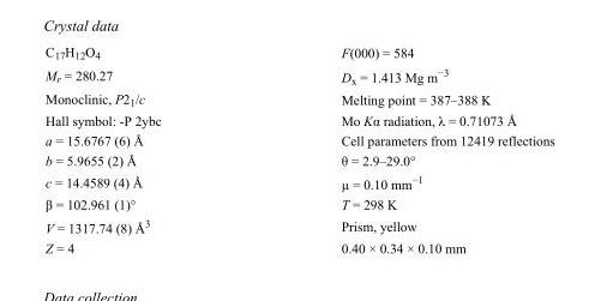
<table><tbody><tr><td>C<sub>17</sub>H<sub>12</sub>O<sub>4</sub></td><td>F(000) = 584</td></tr><tr><td>M<sub>r</sub> = 280.27</td><td>D<sub>x</sub> = 1.413 Mg m<sup>−3</sup></td></tr><tr><td>Monoclinic, P2<sub>1</sub>/c</td><td>Melting point = 387–388 K</td></tr><tr><td>Hall symbol: -P 2ybc</td><td>Mo Kα radiation, λ = 0.71073 Å</td></tr><tr><td>a = 15.6767 (6) Å</td><td>Cell parameters from 12419 reflections</td></tr><tr><td>b = 5.9655 (2) Å</td><td>θ = 2.9–29.0°</td></tr><tr><td>c = 14.4589 (4) Å</td><td>µ = 0.10 mm<sup>−1</sup></td></tr><tr><td>β = 102.961 (1)°</td><td>T = 298 K</td></tr><tr><td>V = 1317.74 (8) Å<sup>3</sup></td><td>Prism, yellow</td></tr><tr><td>Z = 4</td><td>0.40 × 0.34 × 0.10 mm</td></tr></tbody></table>